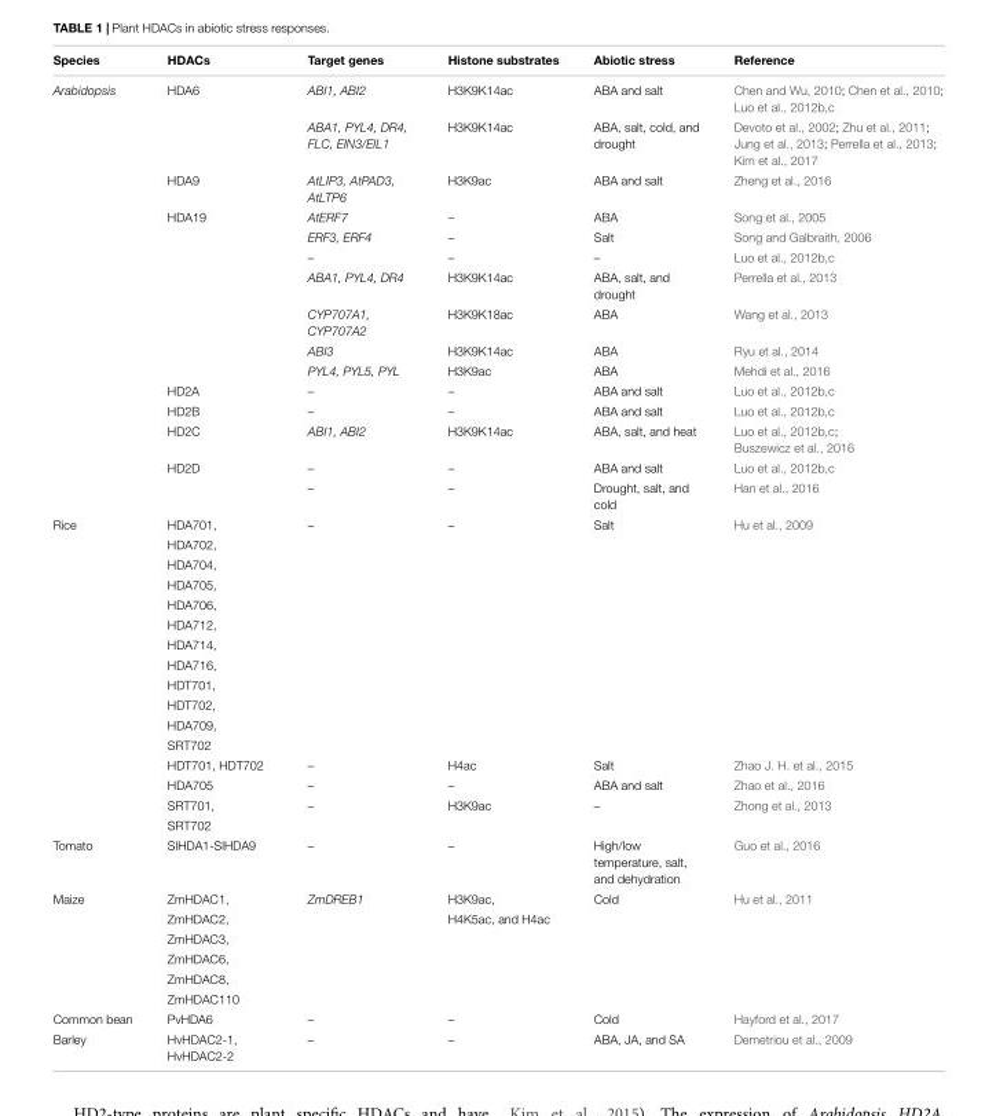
<table><thead><tr><td>Species</td><td>HDACs</td><td>Target genes</td><td>Histone substrates</td><td>Abiotic stress</td><td>Reference</td></tr></thead><tbody><tr><td rowspan="15">Arabidopsis</td><td>HDA6</td><td>ABI1, ABI2</td><td>H3K9K14ac</td><td>ABA and salt</td><td>Chen and Wu, 2010; Chen et al., 2010; Luo et al., 2012b,c</td></tr><tr><td></td><td>ABA1, PYL4, DR4, FLC, EIN3/EIL1</td><td>H3K9K14ac</td><td>ABA, salt, cold, and drought</td><td>Devoto et al., 2002; Zhu et al., 2011; Jung et al., 2013; Perrella et al., 2013; Kim et al., 2017</td></tr><tr><td>HDA9</td><td>AtLIP3, AtPAD3, AtLTP6</td><td>H3K9ac</td><td>ABA and salt</td><td>Zheng et al., 2016</td></tr><tr><td>HDA19</td><td>AtERF7</td><td>–</td><td>ABA</td><td>Song et al., 2005</td></tr><tr><td></td><td>ERF3, ERF4</td><td>–</td><td>Salt</td><td>Song and Galbraith, 2006</td></tr><tr><td></td><td>–</td><td>–</td><td>–</td><td>Luo et al., 2012b,c</td></tr><tr><td></td><td>ABA1, PYL4, DR4</td><td>H3K9K14ac</td><td>ABA, salt, and drought</td><td>Perrella et al., 2013</td></tr><tr><td></td><td>CYP707A1, CYP707A2</td><td>H3K9K18ac</td><td>ABA</td><td>Wang et al., 2013</td></tr><tr><td></td><td>ABI3</td><td>H3K9K14ac</td><td>ABA</td><td>Ryu et al., 2014</td></tr><tr><td></td><td>PYL4, PYL5, PYL</td><td>H3K9ac</td><td>ABA</td><td>Mehdi et al., 2016</td></tr><tr><td>HD2A</td><td>–</td><td>–</td><td>ABA and salt</td><td>Luo et al., 2012b,c</td></tr><tr><td>HD2B</td><td>–</td><td>–</td><td>ABA and salt</td><td>Luo et al., 2012b,c</td></tr><tr><td>HD2C</td><td>ABI1, ABI2</td><td>H3K9K14ac</td><td>ABA, salt, and heat</td><td>Luo et al., 2012b,c; Buszewicz et al., 2016</td></tr><tr><td>HD2D</td><td>–</td><td>–</td><td>ABA and salt</td><td>Luo et al., 2012b,c</td></tr><tr><td></td><td>–</td><td>–</td><td>Drought, salt, and cold</td><td>Han et al., 2016</td></tr><tr><td rowspan="16">Rice</td><td>HDA701,</td><td>–</td><td>–</td><td>Salt</td><td>Hu et al., 2009</td></tr><tr><td>HDA702,</td><td></td><td></td><td></td><td></td></tr><tr><td>HDA704,</td><td></td><td></td><td></td><td></td></tr><tr><td>HDA705,</td><td></td><td></td><td></td><td></td></tr><tr><td>HDA706,</td><td></td><td></td><td></td><td></td></tr><tr><td>HDA712,</td><td></td><td></td><td></td><td></td></tr><tr><td>HDA714,</td><td></td><td></td><td></td><td></td></tr><tr><td>HDA716,</td><td></td><td></td><td></td><td></td></tr><tr><td>HDT701,</td><td></td><td></td><td></td><td></td></tr><tr><td>HDT702,</td><td></td><td></td><td></td><td></td></tr><tr><td>HDA709,</td><td></td><td></td><td></td><td></td></tr><tr><td>SRT702</td><td></td><td></td><td></td><td></td></tr><tr><td>HDT701, HDT702</td><td>–</td><td>H4ac</td><td>Salt</td><td>Zhao J. H. et al., 2015</td></tr><tr><td>HDA705</td><td>–</td><td>–</td><td>ABA and salt</td><td>Zhao et al., 2016</td></tr><tr><td>SRT701,</td><td>–</td><td>H3K9ac</td><td>–</td><td>Zhong et al., 2013</td></tr><tr><td>SRT702</td><td></td><td></td><td></td><td></td></tr><tr><td>Tomato</td><td>SlHDA1-SlHDA9</td><td>–</td><td>–</td><td>High/low temperature, salt, and dehydration</td><td>Guo et al., 2016</td></tr><tr><td rowspan="6">Maize</td><td>ZmHDAC1,</td><td>ZmDREB1</td><td>H3K9ac,</td><td>Cold</td><td>Hu et al., 2011</td></tr><tr><td>ZmHDAC2,</td><td></td><td>H4K5ac, and H4ac</td><td></td><td></td></tr><tr><td>ZmHDAC3,</td><td></td><td></td><td></td><td></td></tr><tr><td>ZmHDAC6,</td><td></td><td></td><td></td><td></td></tr><tr><td>ZmHDAC8,</td><td></td><td></td><td></td><td></td></tr><tr><td>ZmHDAC110</td><td></td><td></td><td></td><td></td></tr><tr><td>Common bean</td><td>PvHDA6</td><td>–</td><td>–</td><td>Cold</td><td>Hayford et al., 2017</td></tr><tr><td>Barley</td><td>HvHDAC2-1, HvHDAC2-2</td><td>–</td><td>–</td><td>ABA, JA, and SA</td><td>Demetriou et al., 2009</td></tr></tbody></table>